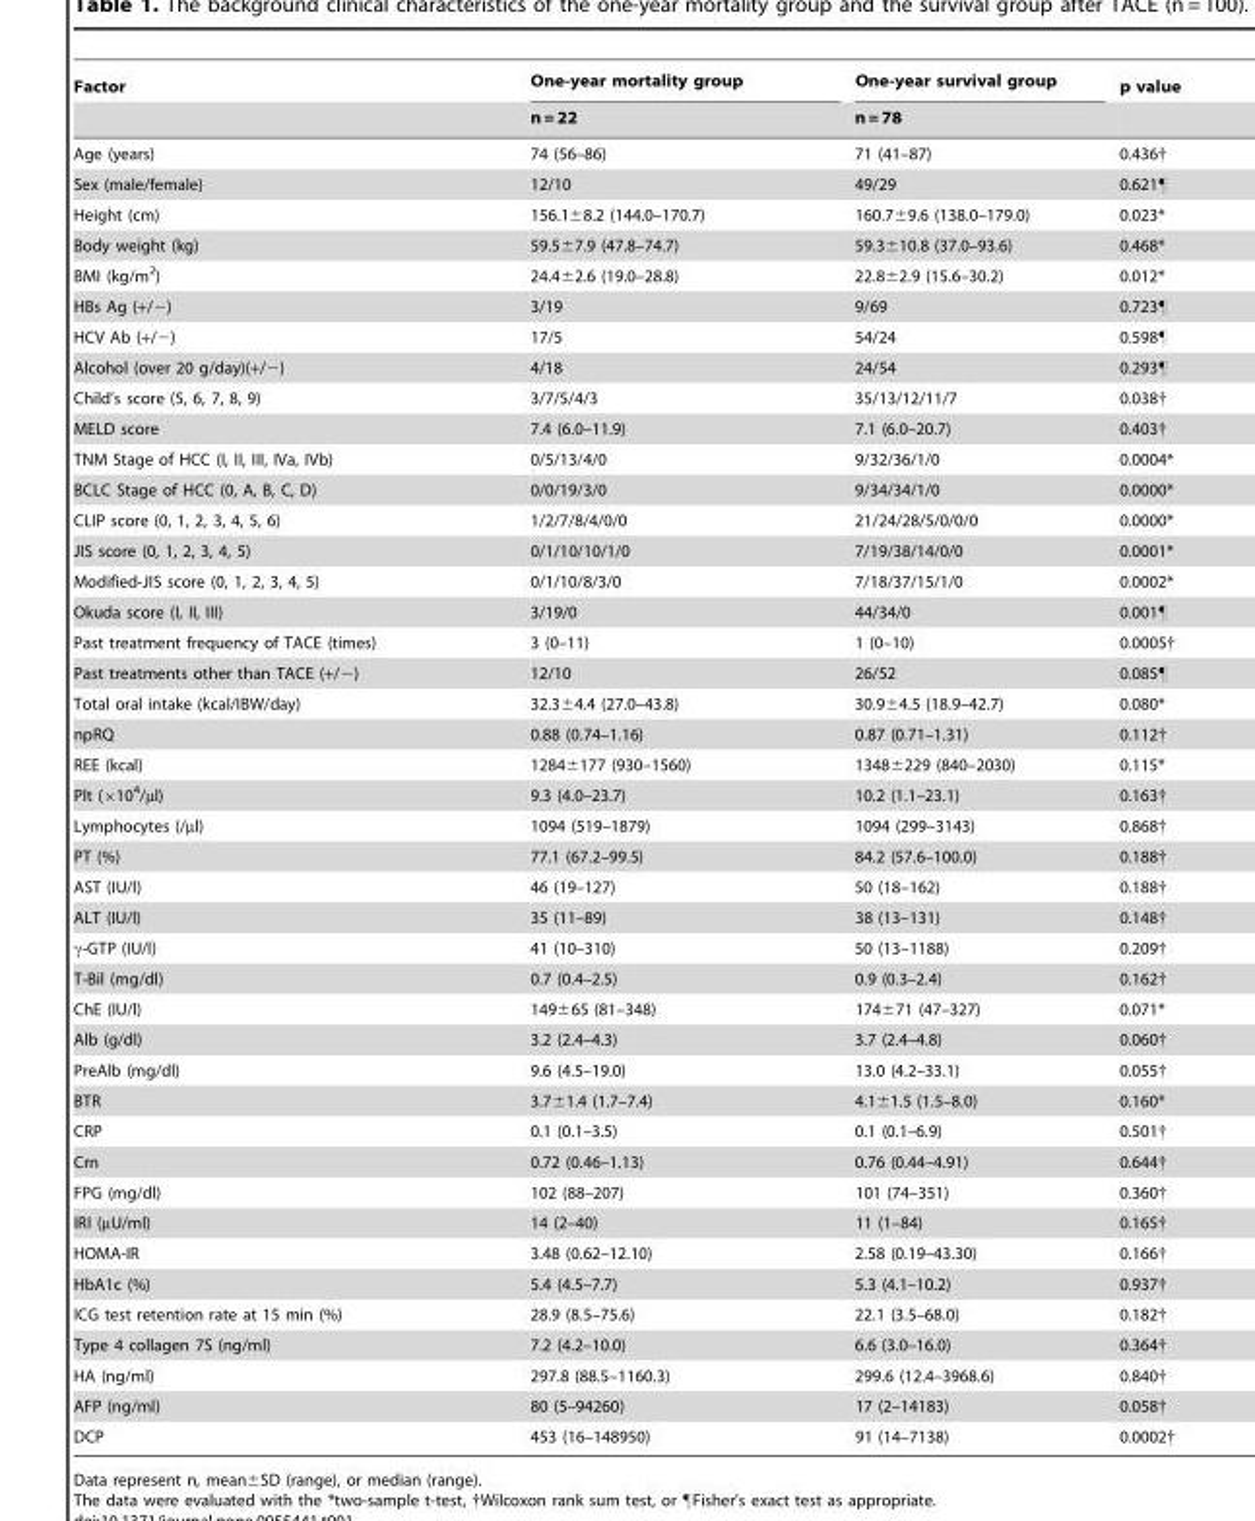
<table><thead><tr><td rowspan="2">Factor</td><td rowspan="2">One-year mortality group n = 22</td><td rowspan="2">One-year survival group n = 78</td><td rowspan="2">p value</td></tr><tr></tr></thead><tbody><tr><td>Age (years)</td><td>74 (56–86)</td><td>71 (41–87)</td><td>0.436†</td></tr><tr><td>Sex (male/female)</td><td>12/10</td><td>49/29</td><td>0.621¶</td></tr><tr><td>Height (cm)</td><td>156.1±8.2 (144.0–170.7)</td><td>160.7±9.6 (138.0–179.0)</td><td>0.023*</td></tr><tr><td>Body weight (kg)</td><td>59.5±7.9 (47.8–74.7)</td><td>59.3±10.8 (37.0–93.6)</td><td>0.468*</td></tr><tr><td>BMI (kg/m<sup>2</sup>)</td><td>24.4±2.6 (19.0–28.8)</td><td>22.8±2.9 (15.6–30.2)</td><td>0.012*</td></tr><tr><td>HBs Ag (+/−)</td><td>3/19</td><td>9/69</td><td>0.723¶</td></tr><tr><td>HCV Ab (+/−)</td><td>17/5</td><td>54/24</td><td>0.598¶</td></tr><tr><td>Alcohol (over 20 g/day)(+/−)</td><td>4/18</td><td>24/54</td><td>0.293¶</td></tr><tr><td>Child’s score (5, 6, 7, 8, 9)</td><td>3/7/5/4/3</td><td>35/13/12/11/7</td><td>0.038†</td></tr><tr><td>MELD score</td><td>7.4 (6.0–11.9)</td><td>7.1 (6.0–20.7)</td><td>0.403†</td></tr><tr><td>TNM Stage of HCC (I, II, III, IVa, IVb)</td><td>0/5/13/4/0</td><td>9/32/36/1/0</td><td>0.0004*</td></tr><tr><td>BCLC Stage of HCC (0, A, B, C, D)</td><td>0/0/19/3/0</td><td>9/34/34/1/0</td><td>0.0000*</td></tr><tr><td>CLIP score (0, 1, 2, 3, 4, 5, 6)</td><td>1/2/7/8/4/0/0</td><td>21/24/28/5/0/0/0</td><td>0.0000*</td></tr><tr><td>JIS score (0, 1, 2, 3, 4, 5)</td><td>0/1/10/10/1/0</td><td>7/19/38/14/0/0</td><td>0.0001*</td></tr><tr><td>Modified-JIS score (0, 1, 2, 3, 4, 5)</td><td>0/1/10/8/3/0</td><td>7/18/37/15/1/0</td><td>0.0002*</td></tr><tr><td>Okuda score (I, II, III)</td><td>3/19/0</td><td>44/34/0</td><td>0.001¶</td></tr><tr><td>Past treatment frequency of TACE (times)</td><td>3 (0–11)</td><td>1 (0–10)</td><td>0.0005†</td></tr><tr><td>Past treatments other than TACE (+/−)</td><td>12/10</td><td>26/52</td><td>0.085¶</td></tr><tr><td>Total oral intake (kcal/IBW/day)</td><td>32.3±4.4 (27.0–43.8)</td><td>30.9±4.5 (18.9–42.7)</td><td>0.080*</td></tr><tr><td>npRQ</td><td>0.88 (0.74–1.16)</td><td>0.87 (0.71–1.31)</td><td>0.112†</td></tr><tr><td>REE (kcal)</td><td>1284±177 (930–1560)</td><td>1348±229 (840–2030)</td><td>0.115*</td></tr><tr><td>Plt (×10<sup>4</sup>/µl)</td><td>9.3 (4.0–23.7)</td><td>10.2 (1.1–23.1)</td><td>0.163†</td></tr><tr><td>Lymphocytes (/µl)</td><td>1094 (519–1879)</td><td>1094 (299–3143)</td><td>0.868†</td></tr><tr><td>PT (%)</td><td>77.1 (67.2–99.5)</td><td>84.2 (57.6–100.0)</td><td>0.188†</td></tr><tr><td>AST (IU/l)</td><td>46 (19–127)</td><td>50 (18–162)</td><td>0.188†</td></tr><tr><td>ALT (IU/l)</td><td>35 (11–89)</td><td>38 (13–131)</td><td>0.148†</td></tr><tr><td>γ-GTP (IU/l)</td><td>41 (10–310)</td><td>50 (13–1188)</td><td>0.209†</td></tr><tr><td>T-Bil (mg/dl)</td><td>0.7 (0.4–2.5)</td><td>0.9 (0.3–2.4)</td><td>0.162†</td></tr><tr><td>ChE (IU/l)</td><td>149±65 (81–348)</td><td>174±71 (47–327)</td><td>0.071*</td></tr><tr><td>Alb (g/dl)</td><td>3.2 (2.4–4.3)</td><td>3.7 (2.4–4.8)</td><td>0.060†</td></tr><tr><td>PreAlb (mg/dl)</td><td>9.6 (4.5–19.0)</td><td>13.0 (4.2–33.1)</td><td>0.055†</td></tr><tr><td>BTR</td><td>3.7±1.4 (1.7–7.4)</td><td>4.1±1.5 (1.5–8.0)</td><td>0.160*</td></tr><tr><td>CRP</td><td>0.1 (0.1–3.5)</td><td>0.1 (0.1–6.9)</td><td>0.501†</td></tr><tr><td>Crn</td><td>0.72 (0.46–1.13)</td><td>0.76 (0.44–4.91)</td><td>0.644†</td></tr><tr><td>FPG (mg/dl)</td><td>102 (88–207)</td><td>101 (74–351)</td><td>0.360†</td></tr><tr><td>IRI (µU/ml)</td><td>14 (2–40)</td><td>11 (1–84)</td><td>0.165†</td></tr><tr><td>HOMA-IR</td><td>3.48 (0.62–12.10)</td><td>2.58 (0.19–43.30)</td><td>0.166†</td></tr><tr><td>HbA1c (%)</td><td>5.4 (4.5–7.7)</td><td>5.3 (4.1–10.2)</td><td>0.937†</td></tr><tr><td>ICG test retention rate at 15 min (%)</td><td>28.9 (8.5–75.6)</td><td>22.1 (3.5–68.0)</td><td>0.182†</td></tr><tr><td>Type 4 collagen 7S (ng/ml)</td><td>7.2 (4.2–10.0)</td><td>6.6 (3.0–16.0)</td><td>0.364†</td></tr><tr><td>HA (ng/ml)</td><td>297.8 (88.5–1160.3)</td><td>299.6 (12.4–3968.6)</td><td>0.840†</td></tr><tr><td>AFP (ng/ml)</td><td>80 (5–94260)</td><td>17 (2–14183)</td><td>0.058†</td></tr><tr><td>DCP</td><td>453 (16–148950)</td><td>91 (14–7138)</td><td>0.0002†</td></tr></tbody></table>